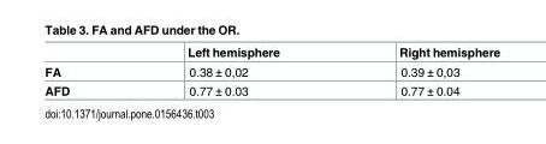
<table><thead><tr><td></td><td>Left hemisphere</td><td>Right hemisphere</td></tr></thead><tbody><tr><td>FA</td><td>0.38 ± 0,02</td><td>0.39 ± 0,03</td></tr><tr><td>AFD</td><td>0.77 ± 0.03</td><td>0.77 ± 0.04</td></tr></tbody></table>